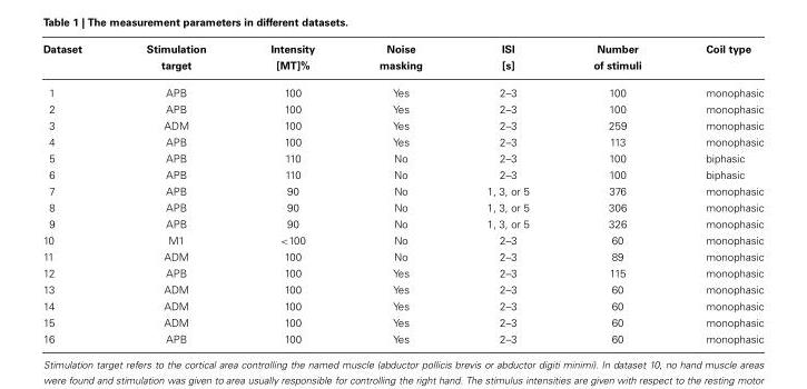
<table><thead><tr><td>Dataset</td><td>Stimulation target</td><td>Intensity [MT]%</td><td>Noise masking</td><td>ISI [s]</td><td>Number of stimuli</td><td>Coil type</td></tr></thead><tbody><tr><td>1</td><td>APB</td><td>100</td><td>Yes</td><td>2–3</td><td>100</td><td>monophasic</td></tr><tr><td>2</td><td>APB</td><td>100</td><td>Yes</td><td>2–3</td><td>100</td><td>monophasic</td></tr><tr><td>3</td><td>ADM</td><td>100</td><td>Yes</td><td>2–3</td><td>259</td><td>monophasic</td></tr><tr><td>4</td><td>APB</td><td>100</td><td>Yes</td><td>2–3</td><td>113</td><td>monophasic</td></tr><tr><td>5</td><td>APB</td><td>110</td><td>No</td><td>2–3</td><td>100</td><td>biphasic</td></tr><tr><td>6</td><td>APB</td><td>110</td><td>No</td><td>2–3</td><td>100</td><td>biphasic</td></tr><tr><td>7</td><td>APB</td><td>90</td><td>No</td><td>1, 3, or 5</td><td>376</td><td>monophasic</td></tr><tr><td>8</td><td>APB</td><td>90</td><td>No</td><td>1, 3, or 5</td><td>306</td><td>monophasic</td></tr><tr><td>9</td><td>APB</td><td>90</td><td>No</td><td>1, 3, or 5</td><td>326</td><td>monophasic</td></tr><tr><td>10</td><td>M1</td><td>&lt;100</td><td>No</td><td>2–3</td><td>60</td><td>monophasic</td></tr><tr><td>11</td><td>ADM</td><td>100</td><td>No</td><td>2–3</td><td>89</td><td>monophasic</td></tr><tr><td>12</td><td>APB</td><td>100</td><td>Yes</td><td>2–3</td><td>115</td><td>monophasic</td></tr><tr><td>13</td><td>ADM</td><td>100</td><td>Yes</td><td>2–3</td><td>60</td><td>monophasic</td></tr><tr><td>14</td><td>ADM</td><td>100</td><td>Yes</td><td>2–3</td><td>60</td><td>monophasic</td></tr><tr><td>15</td><td>ADM</td><td>100</td><td>Yes</td><td>2–3</td><td>60</td><td>monophasic</td></tr><tr><td>16</td><td>APB</td><td>100</td><td>Yes</td><td>2–3</td><td>60</td><td>monophasic</td></tr></tbody></table>